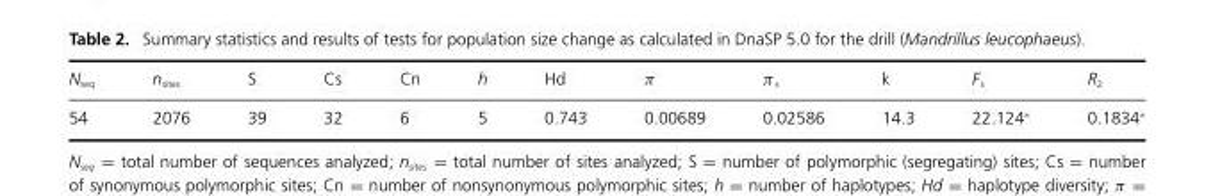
<table><thead><tr><td>N<sub>seq</sub></td><td>n<sub>sites</sub></td><td>S</td><td>Cs</td><td>Cn</td><td>h</td><td>Hd</td><td>π</td><td>π <sub>s</sub></td><td>k</td><td>F<sub>s</sub></td><td>R<sub>2</sub></td></tr></thead><tbody><tr><td>54</td><td>2076</td><td>39</td><td>32</td><td>6</td><td>5</td><td>0.743</td><td>0.00689</td><td>0.02586</td><td>14.3</td><td>22.124∗</td><td>0.1834∗</td></tr></tbody></table>